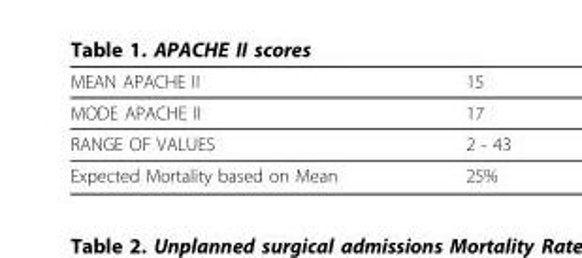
<table><tbody><tr><td>MEAN APACHE II</td><td>15</td></tr><tr><td>MODE APACHE II</td><td>17</td></tr><tr><td>RANGE OF VALUES</td><td>2 - 43</td></tr><tr><td>Expected Mortality based on Mean</td><td>25%</td></tr></tbody></table>